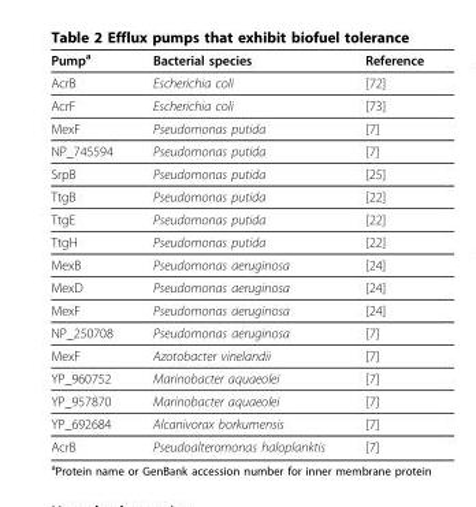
<table><thead><tr><td>Pump<sup>a</sup></td><td>Bacterial species</td><td>Reference</td></tr></thead><tbody><tr><td>AcrB</td><td>Escherichia coli</td><td>[72]</td></tr><tr><td>AcrF</td><td>Escherichia coli</td><td>[73]</td></tr><tr><td>MexF</td><td>Pseudomonas putida</td><td>[7]</td></tr><tr><td>NP_745594</td><td>Pseudomonas putida</td><td>[7]</td></tr><tr><td>SrpB</td><td>Pseudomonas putida</td><td>[25]</td></tr><tr><td>TtgB</td><td>Pseudomonas putida</td><td>[22]</td></tr><tr><td>TtgE</td><td>Pseudomonas putida</td><td>[22]</td></tr><tr><td>TtgH</td><td>Pseudomonas putida</td><td>[22]</td></tr><tr><td>MexB</td><td>Pseudomonas aeruginosa</td><td>[24]</td></tr><tr><td>MexD</td><td>Pseudomonas aeruginosa</td><td>[24]</td></tr><tr><td>MexF</td><td>Pseudomonas aeruginosa</td><td>[24]</td></tr><tr><td>NP_250708</td><td>Pseudomonas aeruginosa</td><td>[7]</td></tr><tr><td>MexF</td><td>Azotobacter vinelandii</td><td>[7]</td></tr><tr><td>YP_960752</td><td>Marinobacter aquaeolei</td><td>[7]</td></tr><tr><td>YP_957870</td><td>Marinobacter aquaeolei</td><td>[7]</td></tr><tr><td>YP_692684</td><td>Alcanivorax borkumensis</td><td>[7]</td></tr><tr><td>AcrB</td><td>Pseudoalteromonas haloplanktis</td><td>[7]</td></tr></tbody></table>